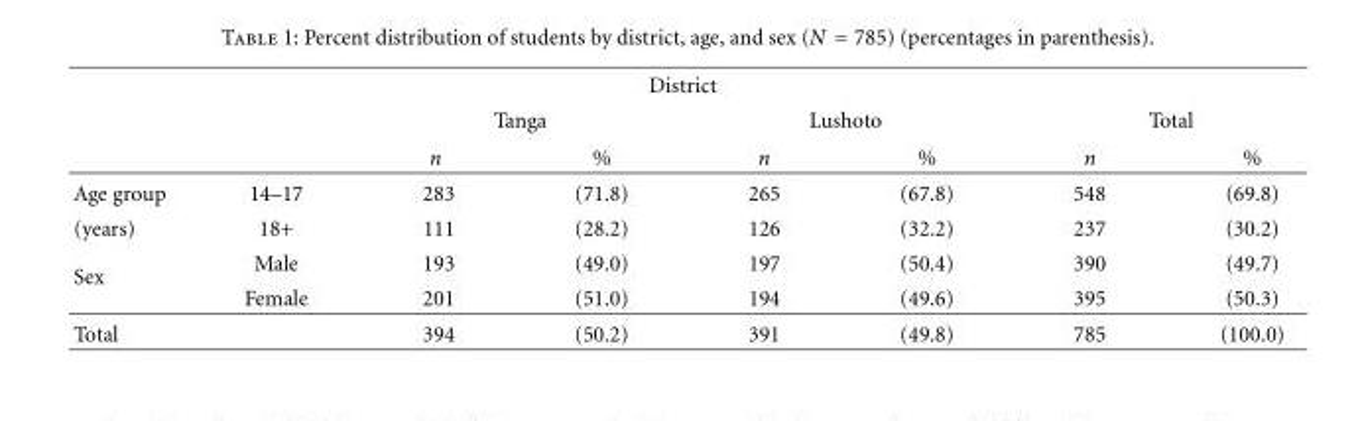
<table><thead><tr><td rowspan="3"></td><td rowspan="3"></td><td colspan="4">District</td><td></td><td></td></tr><tr><td colspan="2">Tanga</td><td colspan="2">Lushoto</td><td colspan="2">Total</td></tr><tr><td>n</td><td>%</td><td>n</td><td>%</td><td>n</td><td>%</td></tr></thead><tbody><tr><td>Age group</td><td>14–17</td><td>283</td><td>(71.8)</td><td>265</td><td>(67.8)</td><td>548</td><td>(69.8)</td></tr><tr><td>(years)</td><td>18+</td><td>111</td><td>(28.2)</td><td>126</td><td>(32.2)</td><td>237</td><td>(30.2)</td></tr><tr><td rowspan="2">Sex</td><td>Male</td><td>193</td><td>(49.0)</td><td>197</td><td>(50.4)</td><td>390</td><td>(49.7)</td></tr><tr><td>Female</td><td>201</td><td>(51.0)</td><td>194</td><td>(49.6)</td><td>395</td><td>(50.3)</td></tr><tr><td>Total</td><td></td><td>394</td><td>(50.2)</td><td>391</td><td>(49.8)</td><td>785</td><td>(100.0)</td></tr></tbody></table>